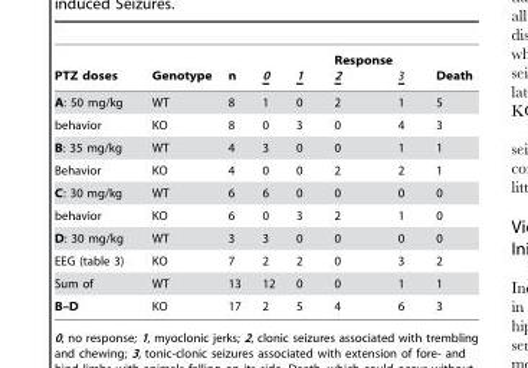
<table><thead><tr><td>PTZ doses</td><td>Genotype</td><td>n</td><td>0</td><td>1</td><td>Response 2</td><td>3</td><td>Death</td></tr></thead><tbody><tr><td>A: 50 mg/kg</td><td>WT</td><td>8</td><td>1</td><td>0</td><td>2</td><td>1</td><td>5</td></tr><tr><td>behavior</td><td>KO</td><td>8</td><td>0</td><td>3</td><td>0</td><td>4</td><td>3</td></tr><tr><td>B: 35 mg/kg</td><td>WT</td><td>4</td><td>3</td><td>0</td><td>0</td><td>1</td><td>1</td></tr><tr><td>Behavior</td><td>KO</td><td>4</td><td>0</td><td>0</td><td>2</td><td>2</td><td>1</td></tr><tr><td>C: 30 mg/kg</td><td>WT</td><td>6</td><td>6</td><td>0</td><td>0</td><td>0</td><td>0</td></tr><tr><td>behavior</td><td>KO</td><td>6</td><td>0</td><td>3</td><td>2</td><td>1</td><td>0</td></tr><tr><td>D: 30 mg/kg</td><td>WT</td><td>3</td><td>3</td><td>0</td><td>0</td><td>0</td><td>0</td></tr><tr><td>EEG (table 3)</td><td>KO</td><td>7</td><td>2</td><td>2</td><td>0</td><td>3</td><td>2</td></tr><tr><td>Sum of</td><td>WT</td><td>13</td><td>12</td><td>0</td><td>0</td><td>1</td><td>1</td></tr><tr><td>B–D</td><td>KO</td><td>17</td><td>2</td><td>5</td><td>4</td><td>6</td><td>3</td></tr></tbody></table>